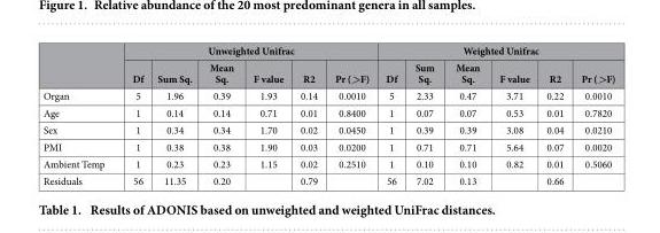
<table><thead><tr><td rowspan="2"></td><td colspan="6">Unweighted Unifrac</td><td colspan="6">Weighted Unifrac</td></tr><tr><td>Df</td><td>Sum Sq.</td><td>Mean Sq.</td><td>F value</td><td>R2</td><td>Pr (&gt;F)</td><td>Df</td><td>Sum Sq.</td><td>Mean Sq.</td><td>F value</td><td>R2</td><td>Pr (&gt;F)</td></tr></thead><tbody><tr><td>Organ</td><td>5</td><td>1.96</td><td>0.39</td><td>1.93</td><td>0.14</td><td>0.0010</td><td>5</td><td>2.33</td><td>0.47</td><td>3.71</td><td>0.22</td><td>0.0010</td></tr><tr><td>Age</td><td>1</td><td>0.14</td><td>0.14</td><td>0.71</td><td>0.01</td><td>0.8400</td><td>1</td><td>0.07</td><td>0.07</td><td>0.53</td><td>0.01</td><td>0.7820</td></tr><tr><td>Sex</td><td>1</td><td>0.34</td><td>0.34</td><td>1.70</td><td>0.02</td><td>0.0450</td><td>1</td><td>0.39</td><td>0.39</td><td>3.08</td><td>0.04</td><td>0.0210</td></tr><tr><td>PMI</td><td>1</td><td>0.38</td><td>0.38</td><td>1.90</td><td>0.03</td><td>0.0200</td><td>1</td><td>0.71</td><td>0.71</td><td>5.64</td><td>0.07</td><td>0.0020</td></tr><tr><td>Ambient Temp</td><td>1</td><td>0.23</td><td>0.23</td><td>1.15</td><td>0.02</td><td>0.2510</td><td>1</td><td>0.10</td><td>0.10</td><td>0.82</td><td>0.01</td><td>0.5060</td></tr><tr><td>Residuals</td><td>56</td><td>11.35</td><td>0.20</td><td></td><td>0.79</td><td></td><td>56</td><td>7.02</td><td>0.13</td><td></td><td>0.66</td><td></td></tr></tbody></table>